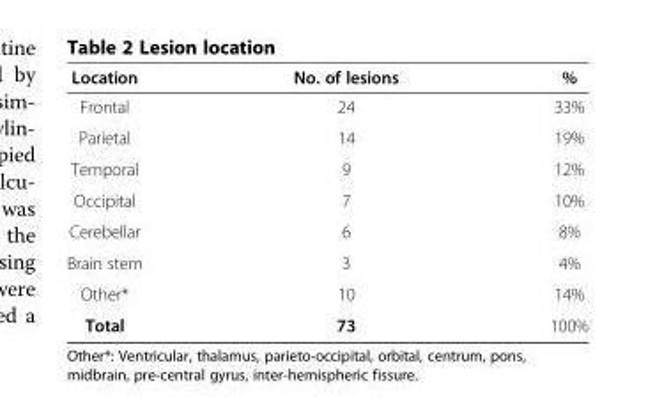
<table><thead><tr><td>Location</td><td>No. of lesions</td><td>%</td></tr></thead><tbody><tr><td>Frontal</td><td>24</td><td>33%</td></tr><tr><td>Parietal</td><td>14</td><td>19%</td></tr><tr><td>Temporal</td><td>9</td><td>12%</td></tr><tr><td>Occipital</td><td>7</td><td>10%</td></tr><tr><td>Cerebellar</td><td>6</td><td>8%</td></tr><tr><td>Brain stem</td><td>3</td><td>4%</td></tr><tr><td>Other*</td><td>10</td><td>14%</td></tr><tr><td>Total</td><td>73</td><td>100%</td></tr></tbody></table>